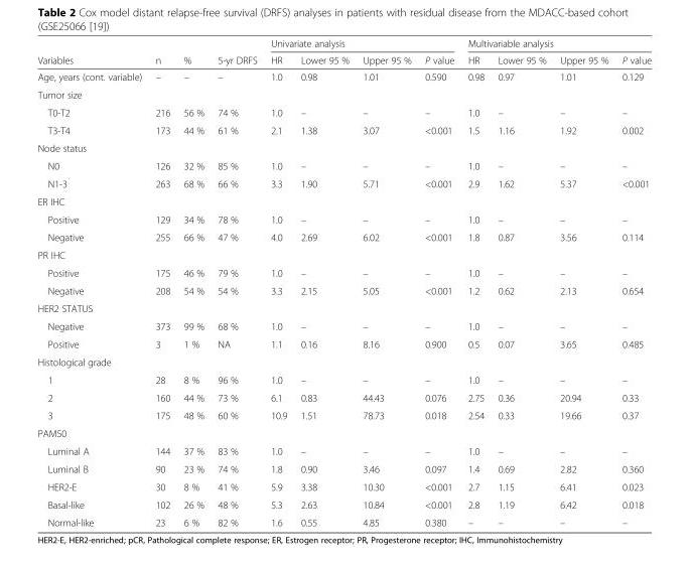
<table><thead><tr><td rowspan="2">Variables</td><td rowspan="2">n</td><td rowspan="2">%</td><td rowspan="2">5-yr DRFS</td><td colspan="4">Univariate analysis</td><td colspan="4">Multivariable analysis</td></tr><tr><td>HR</td><td>Lower 95 %</td><td>Upper 95 %</td><td>P value</td><td>HR</td><td>Lower 95 %</td><td>Upper 95 %</td><td>P value</td></tr></thead><tbody><tr><td>Age, years (cont. variable)</td><td>–</td><td>–</td><td>–</td><td>1.0</td><td>0.98</td><td>1.01</td><td>0.590</td><td>0.98</td><td>0.97</td><td>1.01</td><td>0.129</td></tr><tr><td colspan="12">Tumor size</td></tr><tr><td>T0-T2</td><td>216</td><td>56 %</td><td>74 %</td><td>1.0</td><td>–</td><td>–</td><td>–</td><td>1.0</td><td>–</td><td>–</td><td>–</td></tr><tr><td>T3-T4</td><td>173</td><td>44 %</td><td>61 %</td><td>2.1</td><td>1.38</td><td>3.07</td><td>&lt;0.001</td><td>1.5</td><td>1.16</td><td>1.92</td><td>0.002</td></tr><tr><td colspan="12">Node status</td></tr><tr><td>N0</td><td>126</td><td>32 %</td><td>85 %</td><td>1.0</td><td>–</td><td>–</td><td>–</td><td>1.0</td><td>–</td><td>–</td><td>–</td></tr><tr><td>N1-3</td><td>263</td><td>68 %</td><td>66 %</td><td>3.3</td><td>1.90</td><td>5.71</td><td>&lt;0.001</td><td>2.9</td><td>1.62</td><td>5.37</td><td>&lt;0.001</td></tr><tr><td colspan="12">ER IHC</td></tr><tr><td>Positive</td><td>129</td><td>34 %</td><td>78 %</td><td>1.0</td><td>–</td><td>–</td><td>–</td><td>1.0</td><td>–</td><td>–</td><td>–</td></tr><tr><td>Negative</td><td>255</td><td>66 %</td><td>47 %</td><td>4.0</td><td>2.69</td><td>6.02</td><td>&lt;0.001</td><td>1.8</td><td>0.87</td><td>3.56</td><td>0.114</td></tr><tr><td colspan="12">PR IHC</td></tr><tr><td>Positive</td><td>175</td><td>46 %</td><td>79 %</td><td>1.0</td><td>–</td><td>–</td><td>–</td><td>1.0</td><td>–</td><td>–</td><td>–</td></tr><tr><td>Negative</td><td>208</td><td>54 %</td><td>54 %</td><td>3.3</td><td>2.15</td><td>5.05</td><td>&lt;0.001</td><td>1.2</td><td>0.62</td><td>2.13</td><td>0.654</td></tr><tr><td colspan="12">HER2 STATUS</td></tr><tr><td>Negative</td><td>373</td><td>99 %</td><td>68 %</td><td>1.0</td><td>–</td><td>–</td><td>–</td><td>1.0</td><td>–</td><td>–</td><td>–</td></tr><tr><td>Positive</td><td>3</td><td>1 %</td><td>NA</td><td>1.1</td><td>0.16</td><td>8.16</td><td>0.900</td><td>0.5</td><td>0.07</td><td>3.65</td><td>0.485</td></tr><tr><td colspan="12">Histological grade</td></tr><tr><td>1</td><td>28</td><td>8 %</td><td>96 %</td><td>1.0</td><td>–</td><td>–</td><td>–</td><td>1.0</td><td>–</td><td>–</td><td>–</td></tr><tr><td>2</td><td>160</td><td>44 %</td><td>73 %</td><td>6.1</td><td>0.83</td><td>44.43</td><td>0.076</td><td>2.75</td><td>0.36</td><td>20.94</td><td>0.33</td></tr><tr><td>3</td><td>175</td><td>48 %</td><td>60 %</td><td>10.9</td><td>1.51</td><td>78.73</td><td>0.018</td><td>2.54</td><td>0.33</td><td>19.66</td><td>0.37</td></tr><tr><td colspan="12">PAM50</td></tr><tr><td>Luminal A</td><td>144</td><td>37 %</td><td>83 %</td><td>1.0</td><td>–</td><td>–</td><td>–</td><td>1.0</td><td>–</td><td>–</td><td>–</td></tr><tr><td>Luminal B</td><td>90</td><td>23 %</td><td>74 %</td><td>1.8</td><td>0.90</td><td>3.46</td><td>0.097</td><td>1.4</td><td>0.69</td><td>2.82</td><td>0.360</td></tr><tr><td>HER2-E</td><td>30</td><td>8 %</td><td>41 %</td><td>5.9</td><td>3.38</td><td>10.30</td><td>&lt;0.001</td><td>2.7</td><td>1.15</td><td>6.41</td><td>0.023</td></tr><tr><td>Basal-like</td><td>102</td><td>26 %</td><td>48 %</td><td>5.3</td><td>2.63</td><td>10.84</td><td>&lt;0.001</td><td>2.8</td><td>1.19</td><td>6.42</td><td>0.018</td></tr><tr><td>Normal-like</td><td>23</td><td>6 %</td><td>82 %</td><td>1.6</td><td>0.55</td><td>4.85</td><td>0.380</td><td>–</td><td>–</td><td>–</td><td>–</td></tr></tbody></table>